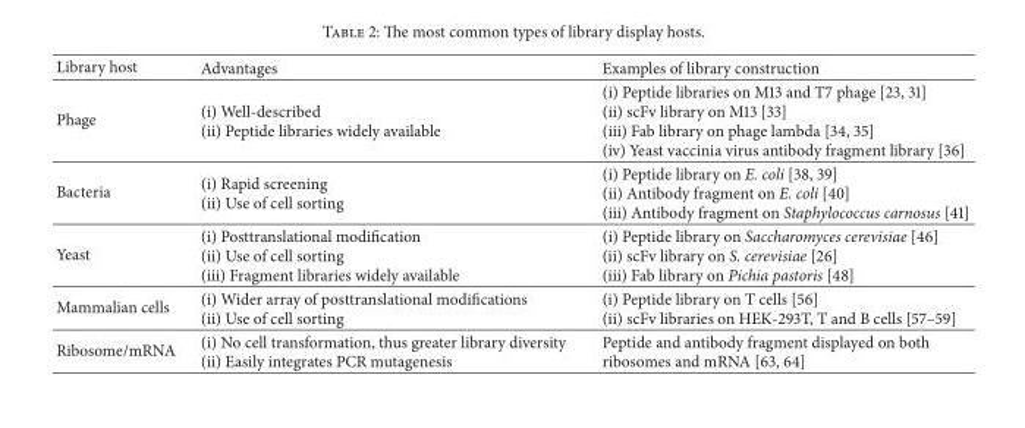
<table><thead><tr><td>Library host</td><td>Advantages</td><td>Examples of library construction</td></tr></thead><tbody><tr><td>Phage</td><td>(i) Well-described (ii) Peptide libraries widely available</td><td>(i) Peptide libraries on M13 and T7 phage [23, 31] (ii) scFv library on M13 [33] (iii) Fab library on phage lambda [34, 35] (iv) Yeast vaccinia virus antibody fragment library [36]</td></tr><tr><td>Bacteria</td><td>(i) Rapid screening (ii) Use of cell sorting</td><td>(i) Peptide library on E. coli [38, 39] (ii) Antibody fragment on E. coli [40] (iii) Antibody fragment on Staphylococcus carnosus [41]</td></tr><tr><td>Yeast</td><td>(i) Posttranslational modification (ii) Use of cell sorting (iii) Fragment libraries widely available</td><td>(i) Peptide library on Saccharomyces cerevisiae [46] (ii) scFv library on S. cerevisiae [26] (iii) Fab library on Pichia pastoris [48]</td></tr><tr><td>Mammalian cells</td><td>(i) Wider array of posttranslational modifications (ii) Use of cell sorting</td><td>(i) Peptide library on T cells [56] (ii) scFv libraries on HEK-293T, T and B cells [57–59]</td></tr><tr><td>Ribosome/mRNA</td><td>(i) No cell transformation, thus greater library diversity (ii) Easily integrates PCR mutagenesis</td><td>Peptide and antibody fragment displayed on both ribosomes and mRNA [63, 64]</td></tr></tbody></table>